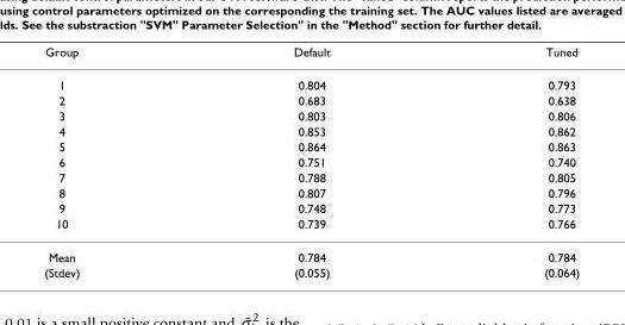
<table><thead><tr><td>Group</td><td>Default</td><td>Tuned</td></tr></thead><tbody><tr><td>1</td><td>0.804</td><td>0.793</td></tr><tr><td>2</td><td>0.683</td><td>0.638</td></tr><tr><td>3</td><td>0.803</td><td>0.806</td></tr><tr><td>4</td><td>0.853</td><td>0.862</td></tr><tr><td>5</td><td>0.864</td><td>0.863</td></tr><tr><td>6</td><td>0.751</td><td>0.740</td></tr><tr><td>7</td><td>0.788</td><td>0.805</td></tr><tr><td>8</td><td>0.807</td><td>0.796</td></tr><tr><td>9</td><td>0.748</td><td>0.773</td></tr><tr><td>10</td><td>0.739</td><td>0.766</td></tr><tr><td>Mean</td><td>0.784</td><td>0.784</td></tr><tr><td>(Stdev)</td><td>(0.055)</td><td>(0.064)</td></tr></tbody></table>